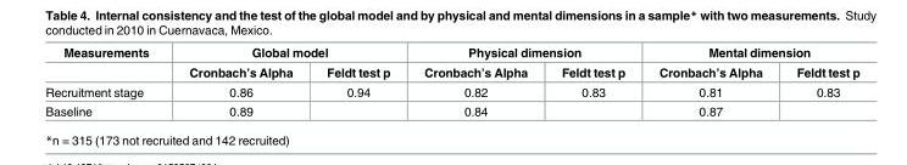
<table><thead><tr><td rowspan="2">Measurements</td><td colspan="2">Global model</td><td colspan="2">Physical dimension</td><td colspan="2">Mental dimension</td></tr><tr><td>Cronbach’s Alpha</td><td>Feldt test p</td><td>Cronbach’s Alpha</td><td>Feldt test p</td><td>Cronbach’s Alpha</td><td>Feldt test p</td></tr></thead><tbody><tr><td>Recruitment stage</td><td>0.86</td><td>0.94</td><td>0.82</td><td>0.83</td><td>0.81</td><td>0.83</td></tr><tr><td>Baseline</td><td>0.89</td><td></td><td>0.84</td><td></td><td>0.87</td><td></td></tr></tbody></table>